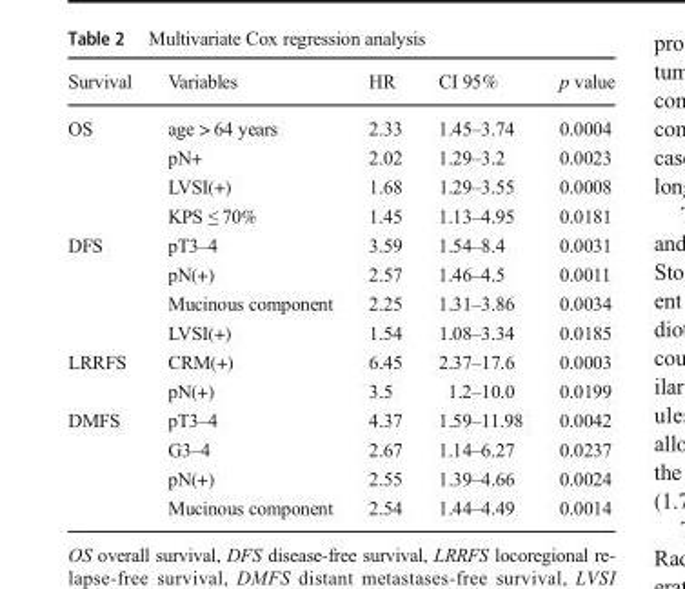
<table><thead><tr><td>Survival</td><td>Variables</td><td>HR</td><td>CI 95%</td><td>p value</td></tr></thead><tbody><tr><td rowspan="4">OS</td><td>age &gt; 64 years</td><td>2.33</td><td>1.45–3.74</td><td>0.0004</td></tr><tr><td>pN+</td><td>2.02</td><td>1.29–3.2</td><td>0.0023</td></tr><tr><td>LVSI(+)</td><td>1.68</td><td>1.29–3.55</td><td>0.0008</td></tr><tr><td>KPS ≤ 70%</td><td>1.45</td><td>1.13–4.95</td><td>0.0181</td></tr><tr><td rowspan="4">DFS</td><td>pT3–4</td><td>3.59</td><td>1.54–8.4</td><td>0.0031</td></tr><tr><td>pN(+)</td><td>2.57</td><td>1.46–4.5</td><td>0.0011</td></tr><tr><td>Mucinous component</td><td>2.25</td><td>1.31–3.86</td><td>0.0034</td></tr><tr><td>LVSI(+)</td><td>1.54</td><td>1.08–3.34</td><td>0.0185</td></tr><tr><td rowspan="2">LRRFS</td><td>CRM(+)</td><td>6.45</td><td>2.37–17.6</td><td>0.0003</td></tr><tr><td>pN(+)</td><td>3.5</td><td>1.2–10.0</td><td>0.0199</td></tr><tr><td rowspan="4">DMFS</td><td>pT3–4</td><td>4.37</td><td>1.59–11.98</td><td>0.0042</td></tr><tr><td>G3–4</td><td>2.67</td><td>1.14–6.27</td><td>0.0237</td></tr><tr><td>pN(+)</td><td>2.55</td><td>1.39–4.66</td><td>0.0024</td></tr><tr><td>Mucinous component</td><td>2.54</td><td>1.44–4.49</td><td>0.0014</td></tr></tbody></table>